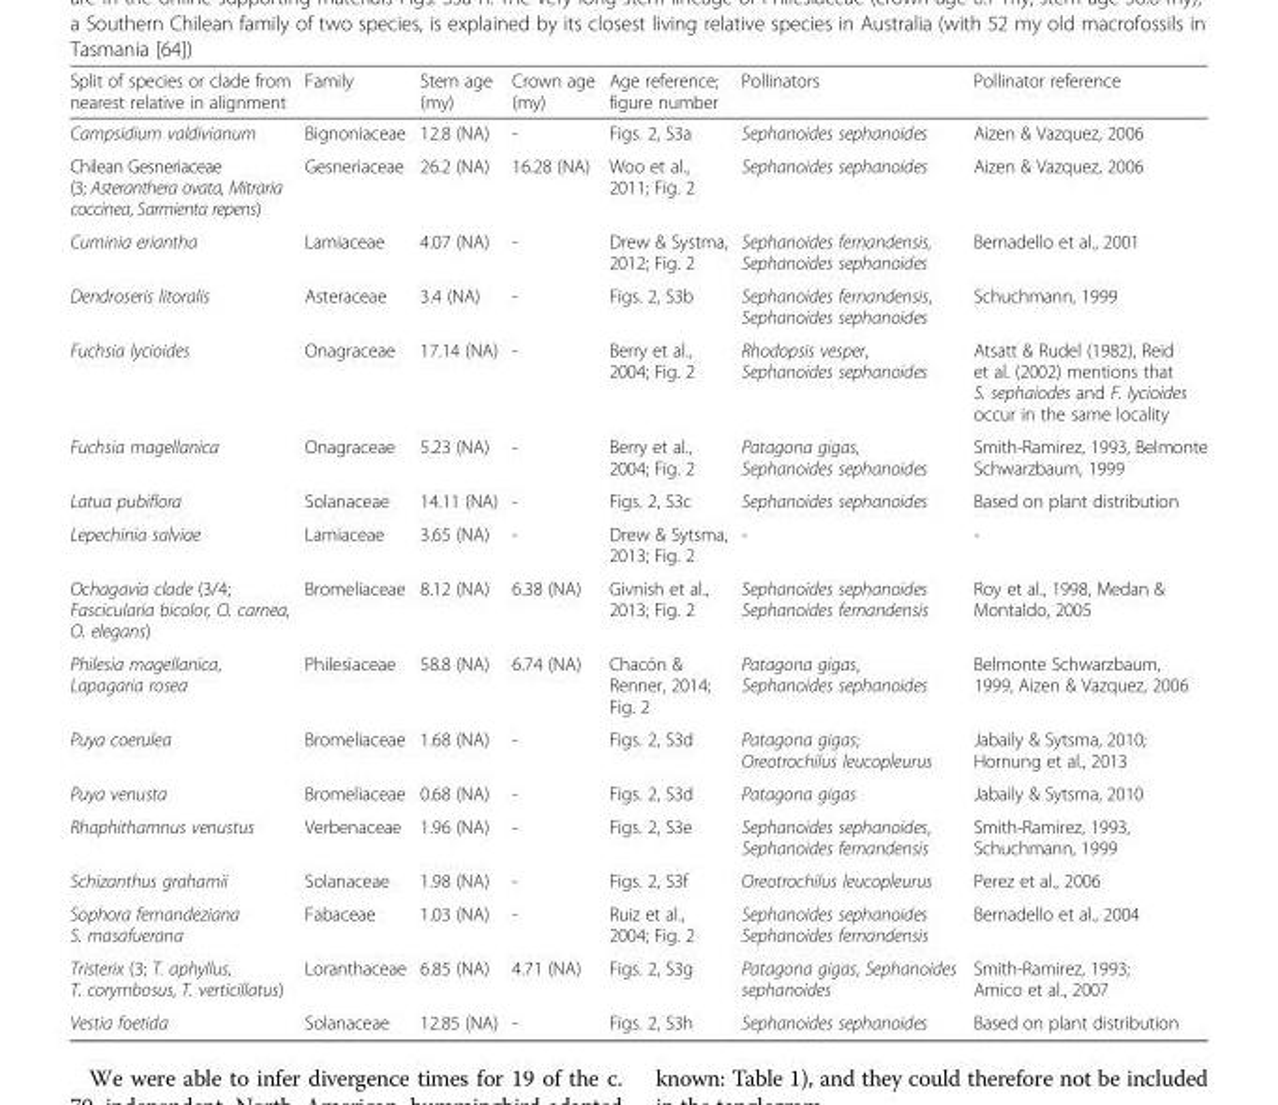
<table><thead><tr><td>Split of species or clade from nearest relative in alignment</td><td>Family</td><td>Stem age (my)</td><td>Crown age (my)</td><td>Age reference; figure number</td><td>Pollinators</td><td>Pollinator reference</td></tr></thead><tbody><tr><td>Campsidium valdivianum</td><td>Bignoniaceae</td><td>12.8 (NA)</td><td>-</td><td>Figs. 2, S3a</td><td>Sephanoides sephanoides</td><td>Aizen &amp; Vazquez, 2006</td></tr><tr><td>Chilean Gesneriaceae (3; Asteranthera ovata, Mitraria coccinea, Sarmienta repens)</td><td>Gesneriaceae</td><td>26.2 (NA)</td><td>16.28 (NA)</td><td>Woo et al., 2011; Fig. 2</td><td>Sephanoides sephanoides</td><td>Aizen &amp; Vazquez, 2006</td></tr><tr><td>Cuminia eriantha</td><td>Lamiaceae</td><td>4.07 (NA)</td><td>-</td><td>Drew &amp; Systma, 2012; Fig. 2</td><td>Sephanoides fernandensis, Sephanoides sephanoides</td><td>Bernadello et al., 2001</td></tr><tr><td>Dendroseris litoralis</td><td>Asteraceae</td><td>3.4 (NA)</td><td>-</td><td>Figs. 2, S3b</td><td>Sephanoides fernandensis, Sephanoides sephanoides</td><td>Schuchmann, 1999</td></tr><tr><td>Fuchsia lycioides</td><td>Onagraceae</td><td>17.14 (NA)</td><td>-</td><td>Berry et al., 2004; Fig. 2</td><td>Rhodopsis vesper, Sephanoides sephanoides</td><td>Atsatt &amp; Rudel (1982), Reid et al. (2002) mentions that S. sephaiodes and F. lycioides occur in the same locality</td></tr><tr><td>Fuchsia magellanica</td><td>Onagraceae</td><td>5.23 (NA)</td><td>-</td><td>Berry et al., 2004; Fig. 2</td><td>Patagona gigas, Sephanoides sephanoides</td><td>Smith-Ramirez, 1993, Belmonte Schwarzbaum, 1999</td></tr><tr><td>Latua pubiflora</td><td>Solanaceae</td><td>14.11 (NA)</td><td>-</td><td>Figs. 2, S3c</td><td>Sephanoides sephanoides</td><td>Based on plant distribution</td></tr><tr><td>Lepechinia salviae</td><td>Lamiaceae</td><td>3.65 (NA)</td><td>-</td><td>Drew &amp; Sytsma, 2013; Fig. 2</td><td>-</td><td>-</td></tr><tr><td>Ochagavia clade (3/4; Fascicularia bicolor, O. carnea, O. elegans)</td><td>Bromeliaceae</td><td>8.12 (NA)</td><td>6.38 (NA)</td><td>Givnish et al., 2013; Fig. 2</td><td>Sephanoides sephanoides Sephanoides fernandensis</td><td>Roy et al., 1998, Medan &amp; Montaldo, 2005</td></tr><tr><td>Philesia magellanica, Lapagaria rosea</td><td>Philesiaceae</td><td>58.8 (NA)</td><td>6.74 (NA)</td><td>Chacón &amp; Renner, 2014; Fig. 2</td><td>Patagona gigas, Sephanoides sephanoides</td><td>Belmonte Schwarzbaum, 1999, Aizen &amp; Vazquez, 2006</td></tr><tr><td>Puya coerulea</td><td>Bromeliaceae</td><td>1.68 (NA)</td><td>-</td><td>Figs. 2, S3d</td><td>Patagona gigas; Oreotrochilus leucopleurus</td><td>Jabaily &amp; Sytsma, 2010; Hornung et al., 2013</td></tr><tr><td>Puya venusta</td><td>Bromeliaceae</td><td>0.68 (NA)</td><td>-</td><td>Figs. 2, S3d</td><td>Patagona gigas</td><td>Jabaily &amp; Sytsma, 2010</td></tr><tr><td>Rhaphithamnus venustus</td><td>Verbenaceae</td><td>1.96 (NA)</td><td>-</td><td>Figs. 2, S3e</td><td>Sephanoides sephanoides, Sephanoides fernandensis</td><td>Smith-Ramirez, 1993, Schuchmann, 1999</td></tr><tr><td>Schizanthus grahamii</td><td>Solanaceae</td><td>1.98 (NA)</td><td>-</td><td>Figs. 2, S3f</td><td>Oreotrochilus leucopleurus</td><td>Perez et al., 2006</td></tr><tr><td>Sophora fernandeziana S. masafuerana</td><td>Fabaceae</td><td>1.03 (NA)</td><td>-</td><td>Ruiz et al., 2004; Fig. 2</td><td>Sephanoides sephanoides Sephanoides fernandensis</td><td>Bernadello et al., 2004</td></tr><tr><td>Tristerix (3; T. aphyllus, T. corymbosus, T. verticillatus)</td><td>Loranthaceae</td><td>6.85 (NA)</td><td>4.71 (NA)</td><td>Figs. 2, S3g</td><td>Patagona gigas, Sephanoides sephanoides</td><td>Smith-Ramirez, 1993; Amico et al., 2007</td></tr><tr><td>Vestia foetida</td><td>Solanaceae</td><td>12.85 (NA)</td><td>-</td><td>Figs. 2, S3h</td><td>Sephanoides sephanoides</td><td>Based on plant distribution</td></tr></tbody></table>